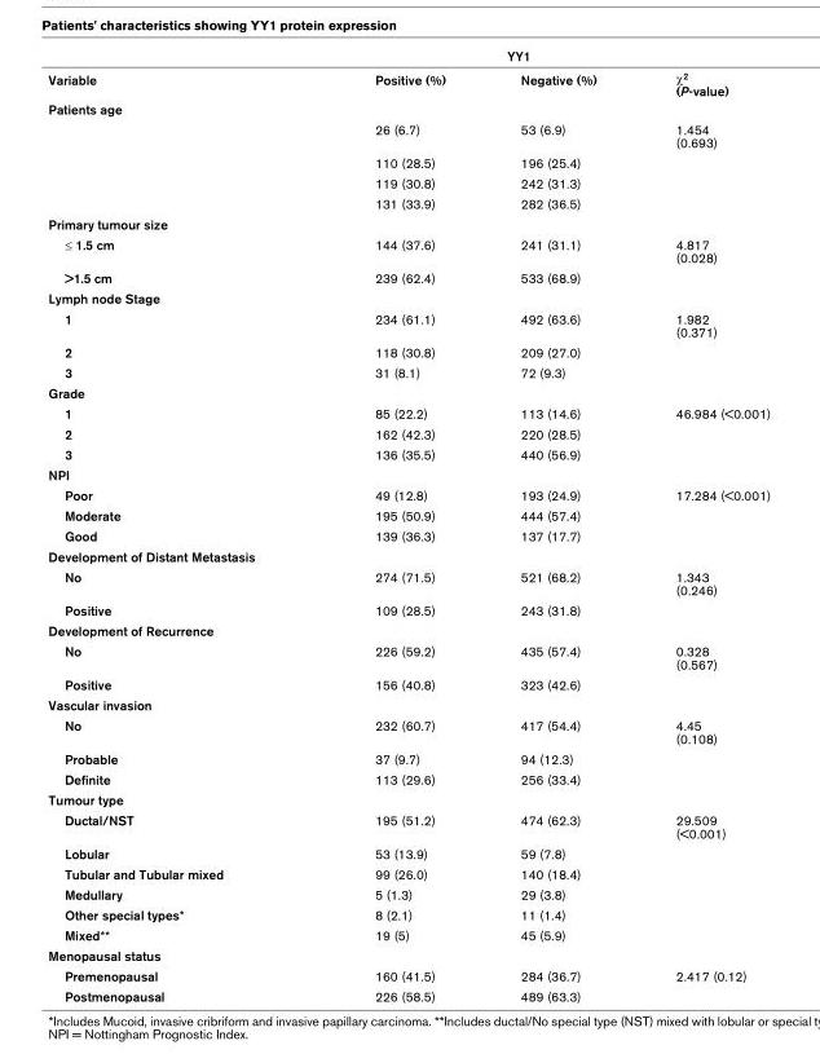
<table><thead><tr><td rowspan="2">Variable</td><td colspan="2">YY1</td><td rowspan="2">χ<sup>2</sup> (P-value)</td></tr><tr><td>Positive (%)</td><td>Negative (%)</td></tr></thead><tbody><tr><td colspan="4">Patients age</td></tr><tr><td></td><td>26 (6.7)</td><td>53 (6.9)</td><td>1.454 (0.693)</td></tr><tr><td></td><td>110 (28.5)</td><td>196 (25.4)</td><td></td></tr><tr><td></td><td>119 (30.8)</td><td>242 (31.3)</td><td></td></tr><tr><td></td><td>131 (33.9)</td><td>282 (36.5)</td><td></td></tr><tr><td colspan="4">Primary tumour size</td></tr><tr><td>≤ 1.5 cm</td><td>144 (37.6)</td><td>241 (31.1)</td><td>4.817 (0.028)</td></tr><tr><td>&gt;1.5 cm</td><td>239 (62.4)</td><td>533 (68.9)</td><td></td></tr><tr><td colspan="4">Lymph node Stage</td></tr><tr><td>1</td><td>234 (61.1)</td><td>492 (63.6)</td><td>1.982 (0.371)</td></tr><tr><td>2</td><td>118 (30.8)</td><td>209 (27.0)</td><td></td></tr><tr><td>3</td><td>31 (8.1)</td><td>72 (9.3)</td><td></td></tr><tr><td colspan="4">Grade</td></tr><tr><td>1</td><td>85 (22.2)</td><td>113 (14.6)</td><td>46.984 (&lt;0.001)</td></tr><tr><td>2</td><td>162 (42.3)</td><td>220 (28.5)</td><td></td></tr><tr><td>3</td><td>136 (35.5)</td><td>440 (56.9)</td><td></td></tr><tr><td colspan="4">NPI</td></tr><tr><td>Poor</td><td>49 (12.8)</td><td>193 (24.9)</td><td>17.284 (&lt;0.001)</td></tr><tr><td>Moderate</td><td>195 (50.9)</td><td>444 (57.4)</td><td></td></tr><tr><td>Good</td><td>139 (36.3)</td><td>137 (17.7)</td><td></td></tr><tr><td colspan="4">Development of Distant Metastasis</td></tr><tr><td>No</td><td>274 (71.5)</td><td>521 (68.2)</td><td>1.343 (0.246)</td></tr><tr><td>Positive</td><td>109 (28.5)</td><td>243 (31.8)</td><td></td></tr><tr><td colspan="4">Development of Recurrence</td></tr><tr><td>No</td><td>226 (59.2)</td><td>435 (57.4)</td><td>0.328 (0.567)</td></tr><tr><td>Positive</td><td>156 (40.8)</td><td>323 (42.6)</td><td></td></tr><tr><td colspan="4">Vascular invasion</td></tr><tr><td>No</td><td>232 (60.7)</td><td>417 (54.4)</td><td>4.45 (0.108)</td></tr><tr><td>Probable</td><td>37 (9.7)</td><td>94 (12.3)</td><td></td></tr><tr><td>Definite</td><td>113 (29.6)</td><td>256 (33.4)</td><td></td></tr><tr><td colspan="4">Tumour type</td></tr><tr><td>Ductal/NST</td><td>195 (51.2)</td><td>474 (62.3)</td><td>29.509 (&lt;0.001)</td></tr><tr><td>Lobular</td><td>53 (13.9)</td><td>59 (7.8)</td><td></td></tr><tr><td>Tubular and Tubular mixed</td><td>99 (26.0)</td><td>140 (18.4)</td><td></td></tr><tr><td>Medullary</td><td>5 (1.3)</td><td>29 (3.8)</td><td></td></tr><tr><td>Other special types*</td><td>8 (2.1)</td><td>11 (1.4)</td><td></td></tr><tr><td>Mixed**</td><td>19 (5)</td><td>45 (5.9)</td><td></td></tr><tr><td colspan="4">Menopausal status</td></tr><tr><td>Premenopausal</td><td>160 (41.5)</td><td>284 (36.7)</td><td>2.417 (0.12)</td></tr><tr><td>Postmenopausal</td><td>226 (58.5)</td><td>489 (63.3)</td><td></td></tr></tbody></table>